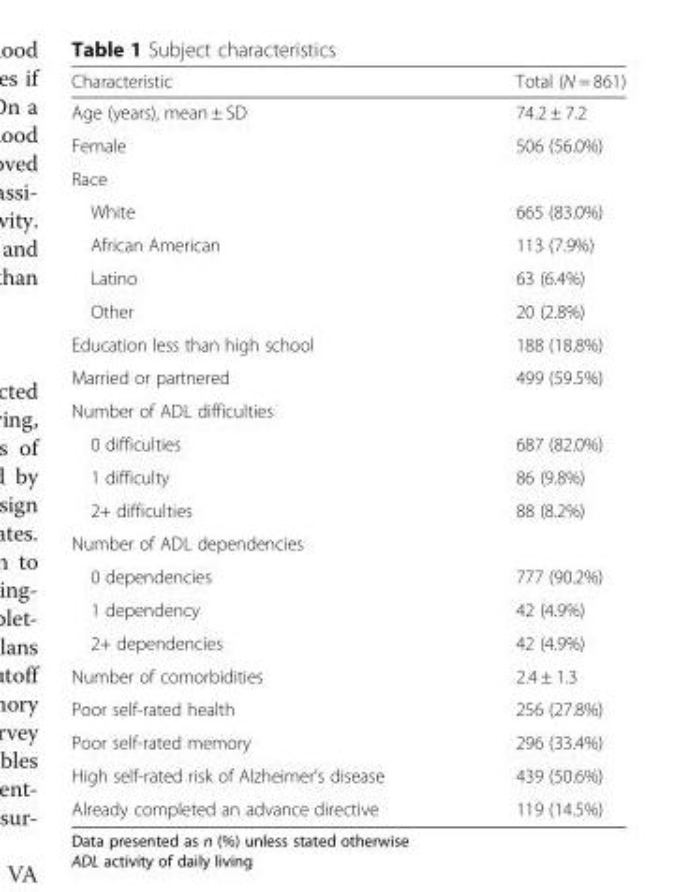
<table><thead><tr><td>Characteristic</td><td>Total (N = 861)</td></tr></thead><tbody><tr><td>Age (years), mean ± SD</td><td>74.2 ± 7.2</td></tr><tr><td>Female</td><td>506 (56.0%)</td></tr><tr><td colspan="2">Race</td></tr><tr><td>White</td><td>665 (83.0%)</td></tr><tr><td>African American</td><td>113 (7.9%)</td></tr><tr><td>Latino</td><td>63 (6.4%)</td></tr><tr><td>Other</td><td>20 (2.8%)</td></tr><tr><td>Education less than high school</td><td>188 (18.8%)</td></tr><tr><td>Married or partnered</td><td>499 (59.5%)</td></tr><tr><td colspan="2">Number of ADL difficulties</td></tr><tr><td>0 difficulties</td><td>687 (82.0%)</td></tr><tr><td>1 difficulty</td><td>86 (9.8%)</td></tr><tr><td>2+ difficulties</td><td>88 (8.2%)</td></tr><tr><td colspan="2">Number of ADL dependencies</td></tr><tr><td>0 dependencies</td><td>777 (90.2%)</td></tr><tr><td>1 dependency</td><td>42 (4.9%)</td></tr><tr><td>2+ dependencies</td><td>42 (4.9%)</td></tr><tr><td>Number of comorbidities</td><td>2.4 ± 1.3</td></tr><tr><td>Poor self-rated health</td><td>256 (27.8%)</td></tr><tr><td>Poor self-rated memory</td><td>296 (33.4%)</td></tr><tr><td>High self-rated risk of Alzheimer’s disease</td><td>439 (50.6%)</td></tr><tr><td>Already completed an advance directive</td><td>119 (14.5%)</td></tr></tbody></table>